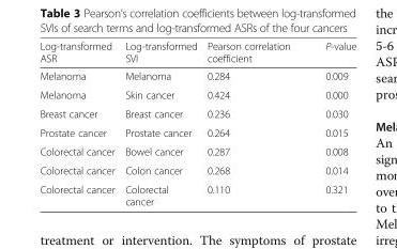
<table><thead><tr><td>Log-transformed ASR</td><td>Log-transformed SVI</td><td>Pearson correlation coefficient</td><td>P-value</td></tr></thead><tbody><tr><td>Melanoma</td><td>Melanoma</td><td>0.284</td><td>0.009</td></tr><tr><td>Melanoma</td><td>Skin cancer</td><td>0.424</td><td>0.000</td></tr><tr><td>Breast cancer</td><td>Breast cancer</td><td>0.236</td><td>0.030</td></tr><tr><td>Prostate cancer</td><td>Prostate cancer</td><td>0.264</td><td>0.015</td></tr><tr><td>Colorectal cancer</td><td>Bowel cancer</td><td>0.287</td><td>0.008</td></tr><tr><td>Colorectal cancer</td><td>Colon cancer</td><td>0.268</td><td>0.014</td></tr><tr><td>Colorectal cancer</td><td>Colorectal cancer</td><td>0.110</td><td>0.321</td></tr></tbody></table>